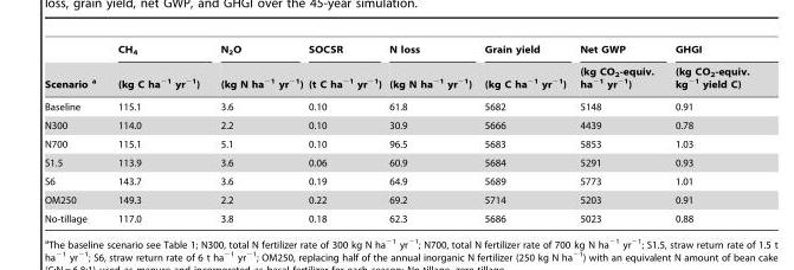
<table><thead><tr><td rowspan="2">Scenario a</td><td rowspan="2">CH<sub>4</sub> (kg C ha<sup>−1</sup> yr<sup>−1</sup>)</td><td rowspan="2">N<sub>2</sub>O (kg N ha<sup>−1</sup> yr<sup>−1</sup>)</td><td rowspan="2">SOCSR (t C ha<sup>−1</sup> yr<sup>−1</sup>)</td><td rowspan="2">N loss (kg N ha<sup>−1</sup> yr<sup>−1</sup>)</td><td rowspan="2">Grain yield (kg C ha<sup>−1</sup> yr<sup>−1</sup>)</td><td rowspan="2">Net GWP (kg CO<sub>2</sub>-equiv. ha<sup>−1</sup> yr<sup>−1</sup>)</td><td rowspan="2">GHGI (kg CO<sub>2</sub>-equiv. kg<sup>−1</sup> yield C)</td></tr><tr></tr></thead><tbody><tr><td>Baseline</td><td>115.1</td><td>3.6</td><td>0.10</td><td>61.8</td><td>5682</td><td>5148</td><td>0.91</td></tr><tr><td>N300</td><td>114.0</td><td>2.2</td><td>0.10</td><td>30.9</td><td>5666</td><td>4439</td><td>0.78</td></tr><tr><td>N700</td><td>115.1</td><td>5.1</td><td>0.10</td><td>96.5</td><td>5683</td><td>5853</td><td>1.03</td></tr><tr><td>S1.5</td><td>113.9</td><td>3.6</td><td>0.06</td><td>60.9</td><td>5684</td><td>5291</td><td>0.93</td></tr><tr><td>S6</td><td>143.7</td><td>3.6</td><td>0.19</td><td>64.9</td><td>5689</td><td>5773</td><td>1.01</td></tr><tr><td>OM250</td><td>149.3</td><td>2.2</td><td>0.22</td><td>69.2</td><td>5714</td><td>5203</td><td>0.91</td></tr><tr><td>No-tillage</td><td>117.0</td><td>3.8</td><td>0.18</td><td>62.3</td><td>5686</td><td>5023</td><td>0.88</td></tr></tbody></table>